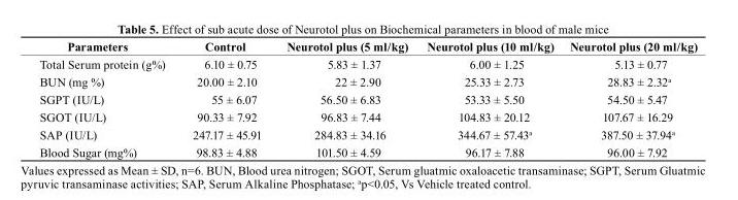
<table><thead><tr><td>Parameters</td><td>control</td><td>Neurotol plus (5 ml/kg)</td><td>Neurotol plus (10 ml/kg)</td><td>Neurotol plus (20 ml/kg)</td></tr></thead><tbody><tr><td>Total Serum protein (g%)</td><td>6.10 ± 0.75</td><td>5.83 ± 1.37</td><td>6.00 ± 1.25</td><td>5.13 ± 0.77</td></tr><tr><td>BUN (mg %)</td><td>20.00 ± 2.10</td><td>22 ± 2.90</td><td>25.33 ± 2.73</td><td>28.83 ± 2.32<sup>a</sup></td></tr><tr><td>SGPT (IU/L)</td><td>55 ± 6.07</td><td>56.50 ± 6.83</td><td>53.33 ± 5.50</td><td>54.50 ± 5.47</td></tr><tr><td>SGOT (IU/L)</td><td>90.33 ± 7.92</td><td>96.83 ± 7.44</td><td>104.83 ± 20.12</td><td>107.67 ± 16.29</td></tr><tr><td>SAP (IU/L)</td><td>247.17 ± 45.91</td><td>284.83 ± 34.16</td><td>344.67 ± 57.43<sup>a</sup></td><td>387.50 ± 37.94<sup>a</sup></td></tr><tr><td>Blood Sugar (mg%)</td><td>98.83 ± 4.88</td><td>101.50 ± 4.59</td><td>96.17 ± 7.88</td><td>96.00 ± 7.92</td></tr></tbody></table>